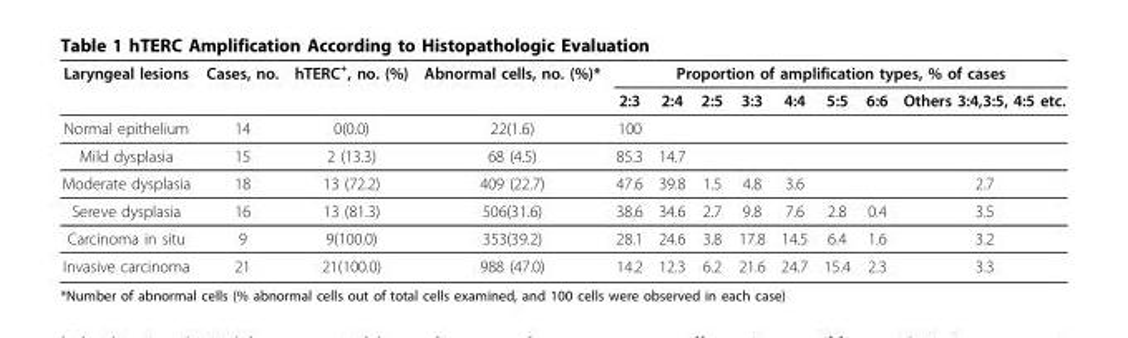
<table><thead><tr><td rowspan="2">Laryngeal lesions</td><td rowspan="2">Cases, no.</td><td rowspan="2">hTERC<sup>+</sup>, no. (%)</td><td rowspan="2">Abnormal cells, no. (%)*</td><td colspan="8">Proportion of amplification types, % of cases</td></tr><tr><td>2:3</td><td>2:4</td><td>2:5</td><td>3:3</td><td>4:4</td><td>5:5</td><td>6:6</td><td>Others 3:4,3:5, 4:5 etc.</td></tr></thead><tbody><tr><td>Normal epithelium</td><td>14</td><td>0(0.0)</td><td>22(1.6)</td><td>100</td><td></td><td></td><td></td><td></td><td></td><td></td><td></td></tr><tr><td>Mild dysplasia</td><td>15</td><td>2 (13.3)</td><td>68 (4.5)</td><td>85.3</td><td>14.7</td><td></td><td></td><td></td><td></td><td></td><td></td></tr><tr><td>Moderate dysplasia</td><td>18</td><td>13 (72.2)</td><td>409 (22.7)</td><td>47.6</td><td>39.8</td><td>1.5</td><td>4.8</td><td>3.6</td><td></td><td></td><td>2.7</td></tr><tr><td>Sereve dysplasia</td><td>16</td><td>13 (81.3)</td><td>506(31.6)</td><td>38.6</td><td>34.6</td><td>2.7</td><td>9.8</td><td>7.6</td><td>2.8</td><td>0.4</td><td>3.5</td></tr><tr><td>Carcinoma in situ</td><td>9</td><td>9(100.0)</td><td>353(39.2)</td><td>28.1</td><td>24.6</td><td>3.8</td><td>17.8</td><td>14.5</td><td>6.4</td><td>1.6</td><td>3.2</td></tr><tr><td>Invasive carcinoma</td><td>21</td><td>21(100.0)</td><td>988 (47.0)</td><td>14.2</td><td>12.3</td><td>6.2</td><td>21.6</td><td>24.7</td><td>15.4</td><td>2.3</td><td>3.3</td></tr></tbody></table>